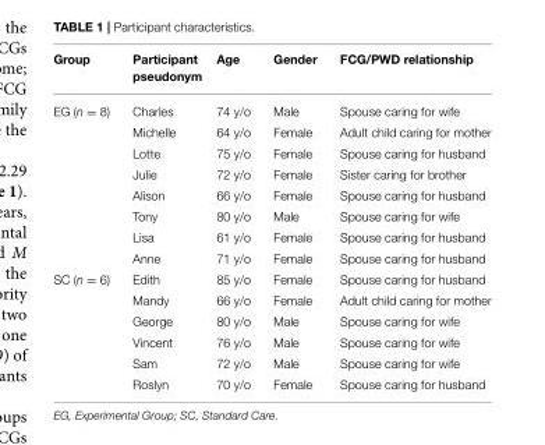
<table><thead><tr><td>Group</td><td>Participant pseudonym</td><td>Age</td><td>Gender</td><td>FCG/PWD relationship</td></tr></thead><tbody><tr><td rowspan="8">EG (n = 8)</td><td>Charles</td><td>74 y/o</td><td>Male</td><td>Spouse caring for wife</td></tr><tr><td>Michelle</td><td>64 y/o</td><td>Female</td><td>Adult child caring for mother</td></tr><tr><td>Lotte</td><td>75 y/o</td><td>Female</td><td>Spouse caring for husband</td></tr><tr><td>Julie</td><td>72 y/o</td><td>Female</td><td>Sister caring for brother</td></tr><tr><td>Alison</td><td>66 y/o</td><td>Female</td><td>Spouse caring for husband</td></tr><tr><td>Tony</td><td>80 y/o</td><td>Male</td><td>Spouse caring for wife</td></tr><tr><td>Lisa</td><td>61 y/o</td><td>Female</td><td>Spouse caring for husband</td></tr><tr><td>Anne</td><td>71 y/o</td><td>Female</td><td>Spouse caring for husband</td></tr><tr><td rowspan="6">SC (n = 6)</td><td>Edith</td><td>85 y/o</td><td>Female</td><td>Spouse caring for husband</td></tr><tr><td>Mandy</td><td>66 y/o</td><td>Female</td><td>Adult child caring for mother</td></tr><tr><td>George</td><td>80 y/o</td><td>Male</td><td>Spouse caring for wife</td></tr><tr><td>Vincent</td><td>76 y/o</td><td>Male</td><td>Spouse caring for wife</td></tr><tr><td>Sam</td><td>72 y/o</td><td>Male</td><td>Spouse caring for wife</td></tr><tr><td>Roslyn</td><td>70 y/o</td><td>Female</td><td>Spouse caring for husband</td></tr></tbody></table>